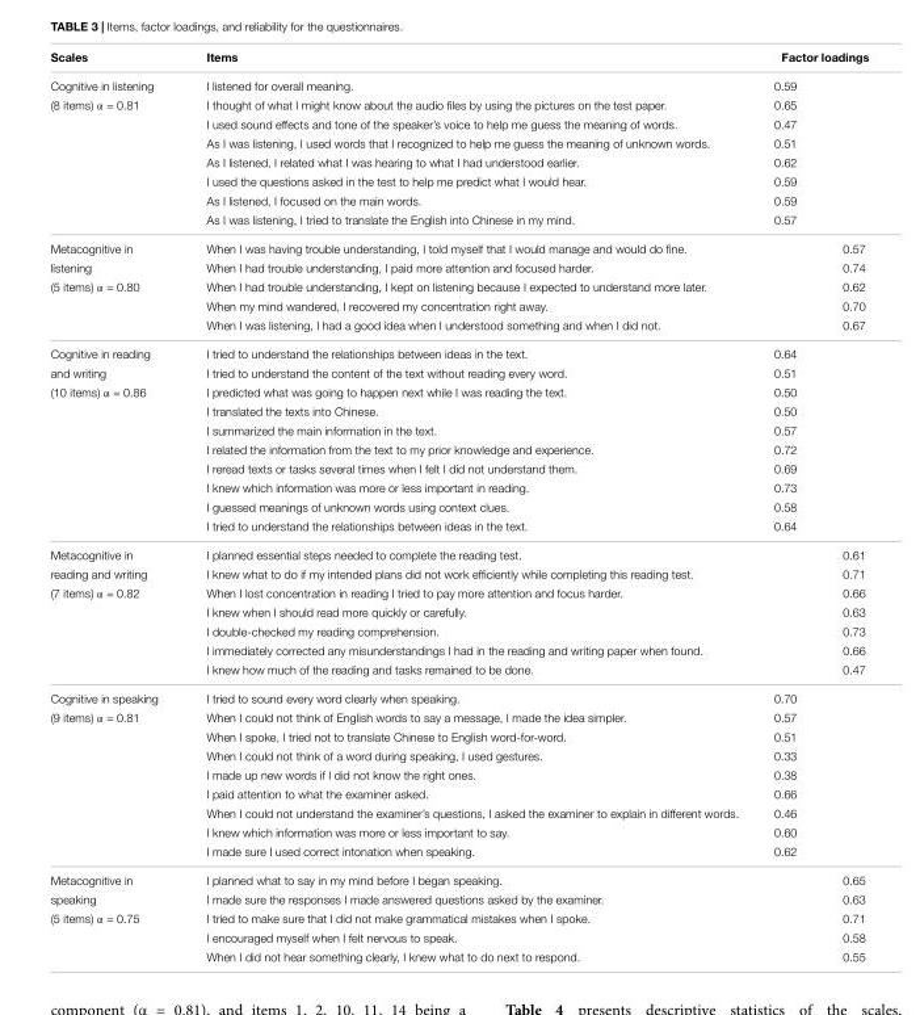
<table><thead><tr><td rowspan="2">Scales Cognitive in listening</td><td rowspan="2">Items I listened for overall meaning.</td><td colspan="2">Factor loadings</td></tr><tr><td>0.59</td><td></td></tr></thead><tbody><tr><td rowspan="7">(8 items) α = 0.81</td><td>I thought of what I might know about the audio files by using the pictures on the test paper.</td><td>0.65</td><td></td></tr><tr><td>I used sound effects and tone of the speaker’s voice to help me guess the meaning of words.</td><td>0.47</td><td></td></tr><tr><td>As I was listening, I used words that I recognized to help me guess the meaning of unknown words.</td><td>0.51</td><td></td></tr><tr><td>As I listened, I related what I was hearing to what I had understood earlier.</td><td>0.62</td><td></td></tr><tr><td>I used the questions asked in the test to help me predict what I would hear.</td><td>0.59</td><td></td></tr><tr><td>As I listened, I focused on the main words.</td><td>0.59</td><td></td></tr><tr><td>As I was listening, I tried to translate the English into Chinese in my mind.</td><td>0.57</td><td></td></tr><tr><td>Metacognitive in</td><td>When I was having trouble understanding, I told myself that I would manage and would do fine.</td><td></td><td>0.57</td></tr><tr><td>listening</td><td>When I had trouble understanding, I paid more attention and focused harder.</td><td></td><td>0.74</td></tr><tr><td rowspan="3">(5 items) α = 0.80</td><td>When I had trouble understanding, I kept on listening because I expected to understand more later.</td><td></td><td>0.62</td></tr><tr><td>When my mind wandered, I recovered my concentration right away.</td><td></td><td>0.70</td></tr><tr><td>When I was listening, I had a good idea when I understood something and when I did not.</td><td></td><td>0.67</td></tr><tr><td>Cognitive in reading</td><td>I tried to understand the relationships between ideas in the text.</td><td>0.64</td><td></td></tr><tr><td>and writing</td><td>I tried to understand the content of the text without reading every word.</td><td>0.51</td><td></td></tr><tr><td rowspan="8">(10 items) α = 0.86</td><td>I predicted what was going to happen next while I was reading the text.</td><td>0.50</td><td></td></tr><tr><td>I translated the texts into Chinese.</td><td>0.50</td><td></td></tr><tr><td>I summarized the main information in the text.</td><td>0.57</td><td></td></tr><tr><td>I related the information from the text to my prior knowledge and experience.</td><td>0.72</td><td></td></tr><tr><td>I reread texts or tasks several times when I felt I did not understand them.</td><td>0.69</td><td></td></tr><tr><td>I knew which information was more or less important in reading.</td><td>0.73</td><td></td></tr><tr><td>I guessed meanings of unknown words using context clues.</td><td>0.58</td><td></td></tr><tr><td>I tried to understand the relationships between ideas in the text.</td><td>0.64</td><td></td></tr><tr><td>Metacognitive in</td><td>I planned essential steps needed to complete the reading test.</td><td></td><td>0.61</td></tr><tr><td>reading and writing</td><td>I knew what to do if my intended plans did not work efficiently while completing this reading test.</td><td></td><td>0.71</td></tr><tr><td rowspan="5">(7 items) α = 0.82</td><td>When I lost concentration in reading I tried to pay more attention and focus harder.</td><td></td><td>0.66</td></tr><tr><td>I knew when I should read more quickly or carefully.</td><td></td><td>0.63</td></tr><tr><td>I double-checked my reading comprehension.</td><td></td><td>0.73</td></tr><tr><td>I immediately corrected any misunderstandings I had in the reading and writing paper when found.</td><td></td><td>0.66</td></tr><tr><td>I knew how much of the reading and tasks remained to be done.</td><td></td><td>0.47</td></tr><tr><td>Cognitive in speaking</td><td>I tried to sound every word clearly when speaking.</td><td>0.70</td><td></td></tr><tr><td rowspan="8">(9 items) α = 0.81</td><td>When I could not think of English words to say a message, I made the idea simpler.</td><td>0.57</td><td></td></tr><tr><td>When I spoke, I tried not to translate Chinese to English word-for-word.</td><td>0.51</td><td></td></tr><tr><td>When I could not think of a word during speaking, I used gestures.</td><td>0.33</td><td></td></tr><tr><td>I made up new words if I did not know the right ones.</td><td>0.38</td><td></td></tr><tr><td>I paid attention to what the examiner asked.</td><td>0.66</td><td></td></tr><tr><td>When I could not understand the examiner’s questions, I asked the examiner to explain in different words.</td><td>0.46</td><td></td></tr><tr><td>I knew which information was more or less important to say.</td><td>0.60</td><td></td></tr><tr><td>I made sure I used correct intonation when speaking.</td><td colspan="2">0.62</td></tr><tr><td>Metacognitive in</td><td>I planned what to say in my mind before I began speaking.</td><td></td><td>0.65</td></tr><tr><td>speaking</td><td>I made sure the responses I made answered questions asked by the examiner.</td><td></td><td>0.63</td></tr><tr><td rowspan="3">(5 items) α = 0.75</td><td>I tried to make sure that I did not make grammatical mistakes when I spoke.</td><td></td><td>0.71</td></tr><tr><td>I encouraged myself when I felt nervous to speak.</td><td></td><td>0.58</td></tr><tr><td>When I did not hear something clearly, I knew what to do next to respond.</td><td></td><td>0.55</td></tr></tbody></table>